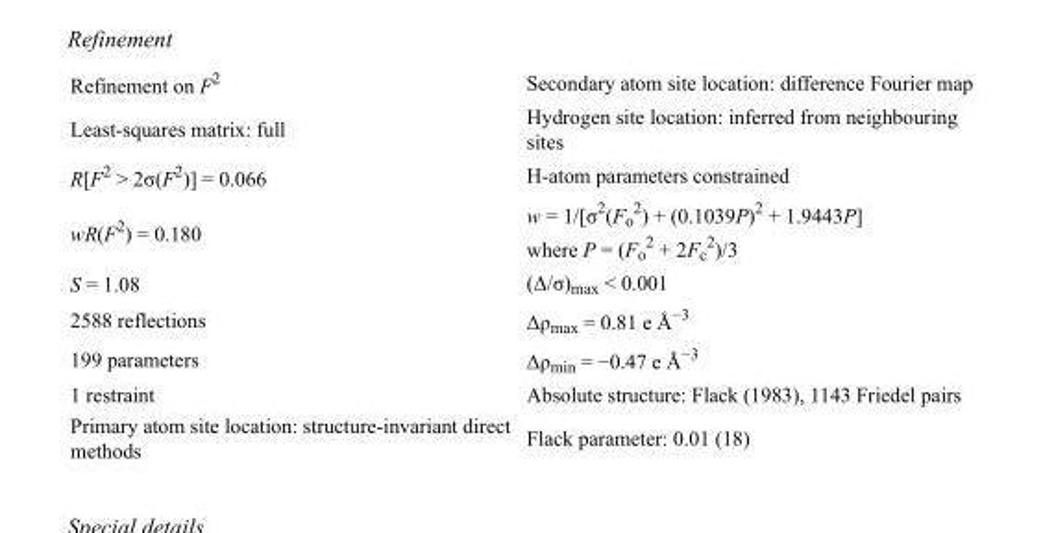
<table><tbody><tr><td>Refinement on F<sup>2</sup></td><td>Secondary atom site location: difference Fourier map</td></tr><tr><td>Least-squares matrix: full</td><td>Hydrogen site location: inferred from neighbouring sites</td></tr><tr><td>R[F<sup>2</sup> &gt; 2σ(F<sup>2</sup>)] = 0.066</td><td>H-atom parameters constrained</td></tr><tr><td>wR(F<sup>2</sup>) = 0.180</td><td>w = 1/[σ<sup>2</sup>(F<sub>o</sub> <sup>2</sup>) + (0.1039P)<sup>2</sup> + 1.9443P] where P = (F<sub>o</sub> <sup>2</sup> + 2F<sub>c</sub> <sup>2</sup>)/3</td></tr><tr><td>S = 1.08</td><td>(Δ/σ)<sub>max</sub> &lt; 0.001</td></tr><tr><td>2588 reflections</td><td>Δρ<sub>max</sub> = 0.81 e Å<sup>−3</sup></td></tr><tr><td>199 parameters</td><td>Δρ<sub>min</sub> = −0.47 e Å<sup>−3</sup></td></tr><tr><td>1 restraint</td><td>Absolute structure: Flack (1983), 1143 Friedel pairs</td></tr><tr><td>Primary atom site location: structure-invariant direct methods</td><td>Flack parameter: 0.01 (18)</td></tr></tbody></table>